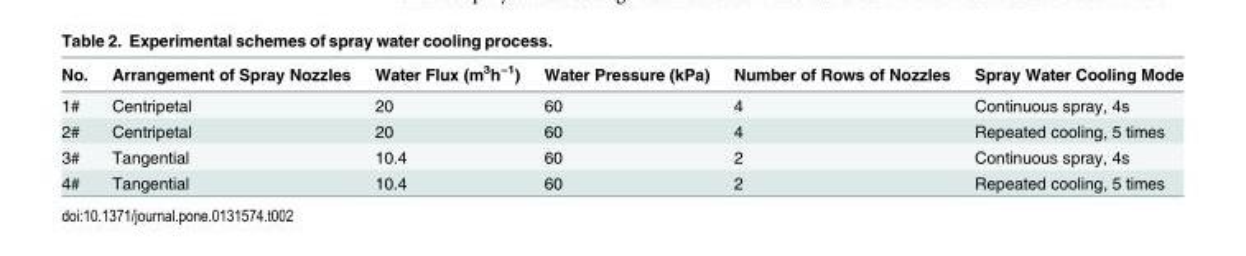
<table><thead><tr><td>No.</td><td>Arrangement of Spray Nozzles</td><td>Water Flux (m<sup>3</sup>h<sup>−1</sup>)</td><td>Water Pressure (kPa)</td><td>Number of Rows of Nozzles</td><td>Spray Water Cooling Mode</td></tr></thead><tbody><tr><td>1#</td><td>Centripetal</td><td>20</td><td>60</td><td>4</td><td>Continuous spray, 4s</td></tr><tr><td>2#</td><td>Centripetal</td><td>20</td><td>60</td><td>4</td><td>Repeated cooling, 5 times</td></tr><tr><td>3#</td><td>Tangential</td><td>10.4</td><td>60</td><td>2</td><td>Continuous spray, 4s</td></tr><tr><td>4#</td><td>Tangential</td><td>10.4</td><td>60</td><td>2</td><td>Repeated cooling, 5 times</td></tr></tbody></table>